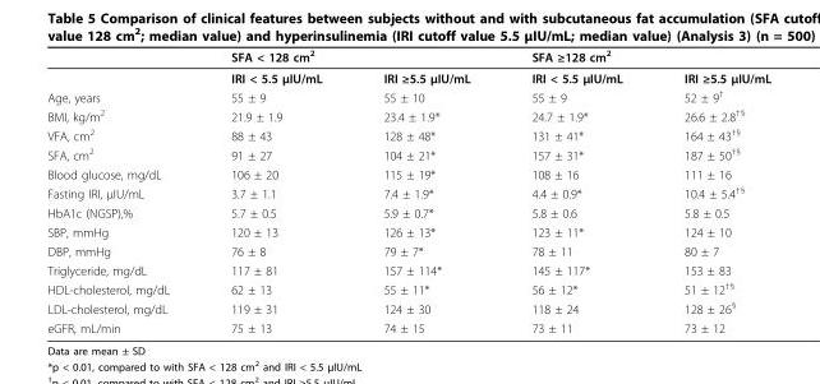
<table><thead><tr><td></td><td>SFA &lt; 128 cm<sup>2</sup></td><td></td><td>SFA ≥128 cm<sup>2</sup></td><td></td></tr></thead><tbody><tr><td></td><td>IRI &lt; 5.5 μIU/mL</td><td>IRI ≥5.5 μIU/mL</td><td>IRI &lt; 5.5 μIU/mL</td><td>IRI ≥5.5 μIU/mL</td></tr><tr><td>Age, years</td><td>55 ± 9</td><td>55 ± 10</td><td>55 ± 9</td><td>52 ± 9<sup>†</sup></td></tr><tr><td>BMI, kg/m<sup>2</sup></td><td>21.9 ± 1.9</td><td>23.4 ± 1.9*</td><td>24.7 ± 1.9*</td><td>26.6 ± 2.8<sup>†§</sup></td></tr><tr><td>VFA, cm<sup>2</sup></td><td>88 ± 43</td><td>128 ± 48*</td><td>131 ± 41*</td><td>164 ± 43<sup>†§</sup></td></tr><tr><td>SFA, cm<sup>2</sup></td><td>91 ± 27</td><td>104 ± 21*</td><td>157 ± 31*</td><td>187 ± 50<sup>†§</sup></td></tr><tr><td>Blood glucose, mg/dL</td><td>106 ± 20</td><td>115 ± 19*</td><td>108 ± 16</td><td>111 ± 16</td></tr><tr><td>Fasting IRI, μIU/mL</td><td>3.7 ± 1.1</td><td>7.4 ± 1.9*</td><td>4.4 ± 0.9*</td><td>10.4 ± 5.4<sup>†§</sup></td></tr><tr><td>HbA1c (NGSP),%</td><td>5.7 ± 0.5</td><td>5.9 ± 0.7*</td><td>5.8 ± 0.6</td><td>5.8 ± 0.5</td></tr><tr><td>SBP, mmHg</td><td>120 ± 13</td><td>126 ± 13*</td><td>123 ± 11*</td><td>124 ± 10</td></tr><tr><td>DBP, mmHg</td><td>76 ± 8</td><td>79 ± 7*</td><td>78 ± 11</td><td>80 ± 7</td></tr><tr><td>Triglyceride, mg/dL</td><td>117 ± 81</td><td>157 ± 114*</td><td>145 ± 117*</td><td>153 ± 83</td></tr><tr><td>HDL-cholesterol, mg/dL</td><td>62 ± 13</td><td>55 ± 11*</td><td>56 ± 12*</td><td>51 ± 12<sup>†§</sup></td></tr><tr><td>LDL-cholesterol, mg/dL</td><td>119 ± 31</td><td>124 ± 30</td><td>118 ± 24</td><td>128 ± 26<sup>§</sup></td></tr><tr><td>eGFR, mL/min</td><td>75 ± 13</td><td>74 ± 15</td><td>73 ± 11</td><td>73 ± 12</td></tr></tbody></table>